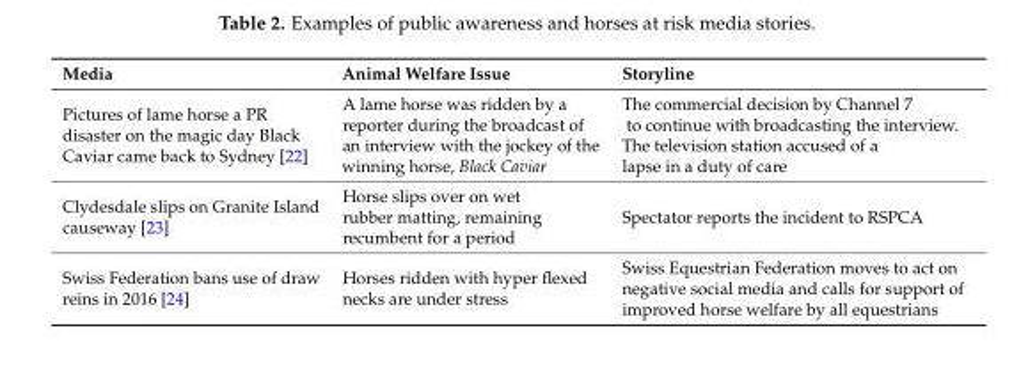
<table><thead><tr><td>Media</td><td>Animal Welfare Issue</td><td>Storyline</td></tr></thead><tbody><tr><td>Pictures of lame horse a PR disaster on the magic day Black Caviar came back to Sydney [22]</td><td>A lame horse was ridden by a reporter during the broadcast of an interview with the jockey of the winning horse, Black Caviar</td><td>The commercial decision by Channel 7 to continue with broadcasting the interview. The television station accused of a lapse in a duty of care</td></tr><tr><td>Clydesdale slips on Granite Island causeway [23]</td><td>Horse slips over on wet rubber matting, remaining recumbent for a period</td><td>Spectator reports the incident to RSPCA</td></tr><tr><td>Swiss Federation bans use of draw reins in 2016 [24]</td><td>Horses ridden with hyper flexed necks are under stress</td><td>Swiss Equestrian Federation moves to act on negative social media and calls for support of improved horse welfare by all equestrians</td></tr></tbody></table>